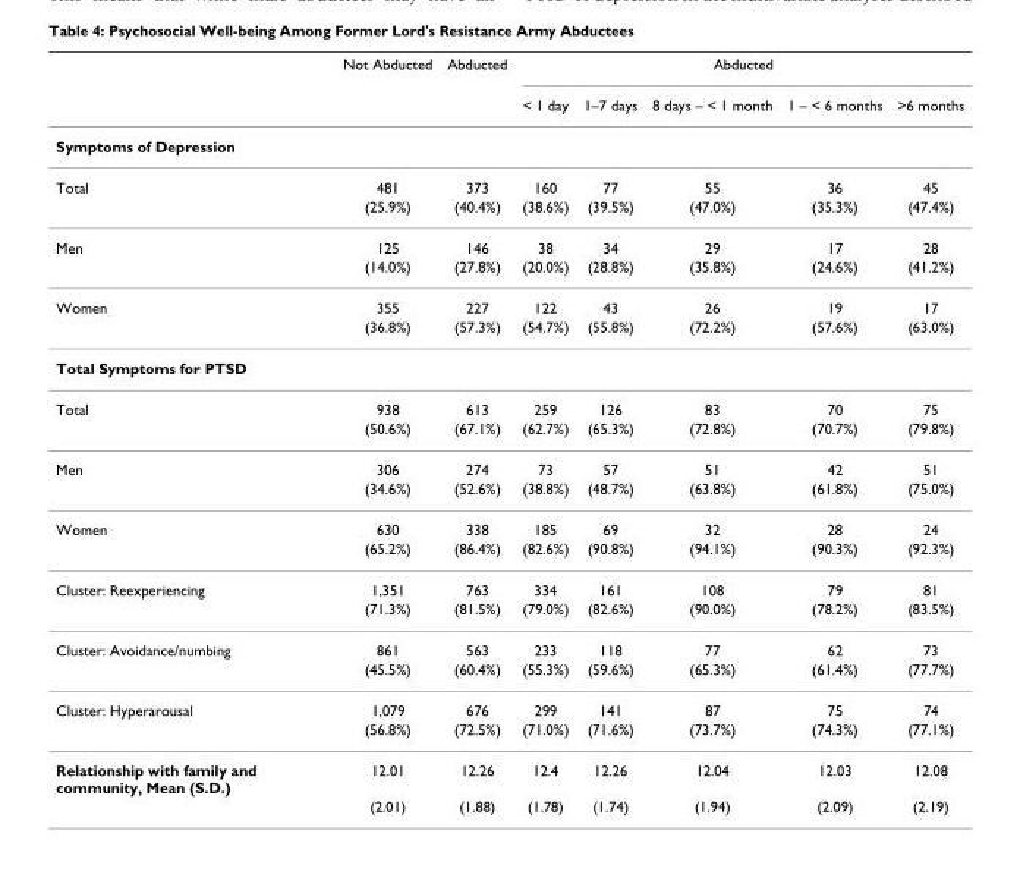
<table><thead><tr><td rowspan="2"></td><td rowspan="2">Not Abducted</td><td rowspan="2">Abducted</td><td colspan="5">Abducted</td></tr><tr><td>&lt; 1 day</td><td>1–7 days</td><td>8 days – &lt; 1 month</td><td>1 – &lt; 6 months</td><td>&gt;6 months</td></tr></thead><tbody><tr><td colspan="8">Symptoms of Depression</td></tr><tr><td rowspan="2">Total</td><td>481</td><td>373</td><td>160</td><td>77</td><td>55</td><td>36</td><td>45</td></tr><tr><td>(25.9%)</td><td>(40.4%)</td><td>(38.6%)</td><td>(39.5%)</td><td>(47.0%)</td><td>(35.3%)</td><td>(47.4%)</td></tr><tr><td rowspan="2">Men</td><td>125</td><td>146</td><td>38</td><td>34</td><td>29</td><td>17</td><td>28</td></tr><tr><td>(14.0%)</td><td>(27.8%)</td><td>(20.0%)</td><td>(28.8%)</td><td>(35.8%)</td><td>(24.6%)</td><td>(41.2%)</td></tr><tr><td rowspan="2">Women</td><td>355</td><td>227</td><td>122</td><td>43</td><td>26</td><td>19</td><td>17</td></tr><tr><td>(36.8%)</td><td>(57.3%)</td><td>(54.7%)</td><td>(55.8%)</td><td>(72.2%)</td><td>(57.6%)</td><td>(63.0%)</td></tr><tr><td colspan="8">Total Symptoms for PTSD</td></tr><tr><td rowspan="2">Total</td><td>938</td><td>613</td><td>259</td><td>126</td><td>83</td><td>70</td><td>75</td></tr><tr><td>(50.6%)</td><td>(67.1%)</td><td>(62.7%)</td><td>(65.3%)</td><td>(72.8%)</td><td>(70.7%)</td><td>(79.8%)</td></tr><tr><td rowspan="2">Men</td><td>306</td><td>274</td><td>73</td><td>57</td><td>51</td><td>42</td><td>51</td></tr><tr><td>(34.6%)</td><td>(52.6%)</td><td>(38.8%)</td><td>(48.7%)</td><td>(63.8%)</td><td>(61.8%)</td><td>(75.0%)</td></tr><tr><td rowspan="2">Women</td><td>630</td><td>338</td><td>185</td><td>69</td><td>32</td><td>28</td><td>24</td></tr><tr><td>(65.2%)</td><td>(86.4%)</td><td>(82.6%)</td><td>(90.8%)</td><td>(94.1%)</td><td>(90.3%)</td><td>(92.3%)</td></tr><tr><td rowspan="2">Cluster: Reexperiencing</td><td>1,351</td><td>763</td><td>334</td><td>161</td><td>108</td><td>79</td><td>81</td></tr><tr><td>(71.3%)</td><td>(81.5%)</td><td>(79.0%)</td><td>(82.6%)</td><td>(90.0%)</td><td>(78.2%)</td><td>(83.5%)</td></tr><tr><td rowspan="2">Cluster: Avoidance/numbing</td><td>861</td><td>563</td><td>233</td><td>118</td><td>77</td><td>62</td><td>73</td></tr><tr><td>(45.5%)</td><td>(60.4%)</td><td>(55.3%)</td><td>(59.6%)</td><td>(65.3%)</td><td>(61.4%)</td><td>(77.7%)</td></tr><tr><td rowspan="2">Cluster: Hyperarousal</td><td>1,079</td><td>676</td><td>299</td><td>141</td><td>87</td><td>75</td><td>74</td></tr><tr><td>(56.8%)</td><td>(72.5%)</td><td>(71.0%)</td><td>(71.6%)</td><td>(73.7%)</td><td>(74.3%)</td><td>(77.1%)</td></tr><tr><td rowspan="2">Relationship with family and community, Mean (S.D.)</td><td>12.01</td><td>12.26</td><td>12.4</td><td>12.26</td><td>12.04</td><td>12.03</td><td>12.08</td></tr><tr><td>(2.01)</td><td>(1.88)</td><td>(1.78)</td><td>(1.74)</td><td>(1.94)</td><td>(2.09)</td><td>(2.19)</td></tr></tbody></table>